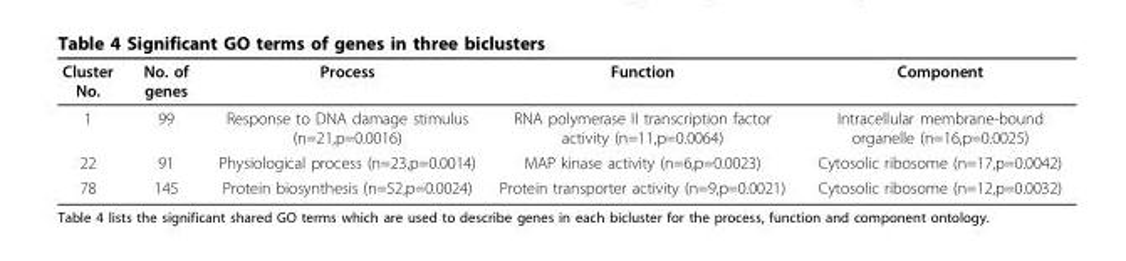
<table><thead><tr><td>Cluster No.</td><td>No. of genes</td><td>Process</td><td>Function</td><td>Component</td></tr></thead><tbody><tr><td>1</td><td>99</td><td>Response to DNA damage stimulus (n=21,p=0.0016)</td><td>RNA polymerase II transcription factor activity (n=11,p=0.0064)</td><td>Intracellular membrane-bound organelle (n=16,p=0.0025)</td></tr><tr><td>22</td><td>91</td><td>Physiological process (n=23,p=0.0014)</td><td>MAP kinase activity (n=6,p=0.0023)</td><td>Cytosolic ribosome (n=17,p=0.0042)</td></tr><tr><td>78</td><td>145</td><td>Protein biosynthesis (n=52,p=0.0024)</td><td>Protein transporter activity (n=9,p=0.0021)</td><td>Cytosolic ribosome (n=12,p=0.0032)</td></tr></tbody></table>